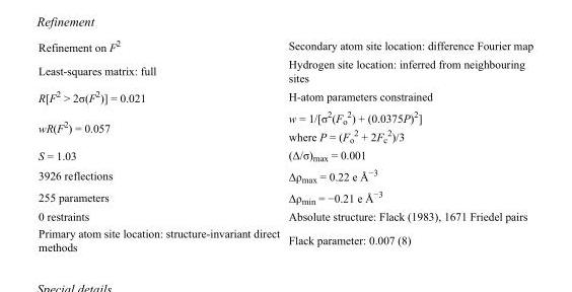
<table><tbody><tr><td>Refinement on F<sup>2</sup></td><td>Secondary atom site location: difference Fourier map</td></tr><tr><td>Least-squares matrix: full</td><td>Hydrogen site location: inferred from neighbouring sites</td></tr><tr><td>R[F<sup>2</sup> &gt; 2σ(F<sup>2</sup>)] = 0.021</td><td>H-atom parameters constrained</td></tr><tr><td>wR(F<sup>2</sup>) = 0.057</td><td>w = 1/[σ<sup>2</sup>(F<sub>o</sub> <sup>2</sup>) + (0.0375P)<sup>2</sup>] where P = (F<sub>o</sub> <sup>2</sup> + 2F<sub>c</sub> <sup>2</sup>)/3</td></tr><tr><td>S = 1.03</td><td>(Δ/σ)<sub>max</sub> = 0.001</td></tr><tr><td>3926 reflections</td><td>Δρ<sub>max</sub> = 0.22 e Å<sup>−3</sup></td></tr><tr><td>255 parameters</td><td>Δρ<sub>min</sub> = −0.21 e Å<sup>−3</sup></td></tr><tr><td>0 restraints</td><td>Absolute structure: Flack (1983), 1671 Friedel pairs</td></tr><tr><td>Primary atom site location: structure-invariant direct methods</td><td>Flack parameter: 0.007 (8)</td></tr></tbody></table>